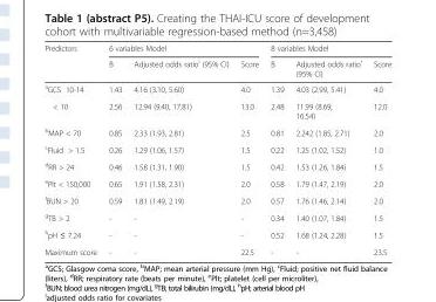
<table><thead><tr><td rowspan="2">Predictors</td><td colspan="3">6 variables Model</td><td colspan="3">8 variables Model</td></tr><tr><td>B</td><td>Adjusted odds ratio<sup>i</sup> (95% CI)</td><td>Score</td><td>B</td><td>Adjusted odds ratio<sup>i</sup> (95% CI)</td><td>Score</td></tr></thead><tbody><tr><td><sup>a</sup>GCS 10-14</td><td>1.43</td><td>4.16 (3.10, 5.60)</td><td>4.0</td><td>1.39</td><td>4.03 (2.99, 5.41)</td><td>4.0</td></tr><tr><td>&lt; 10</td><td>2.56</td><td>12.94 (9.40, 17.81)</td><td>13.0</td><td>2.48</td><td>11.99 (8.69, 16.54)</td><td>12.0</td></tr><tr><td><sup>b</sup>MAP &lt; 70</td><td>0.85</td><td>2.33 (1.93, 2.81)</td><td>2.5</td><td>0.81</td><td>2.242 (1.85, 2.71)</td><td>2.0</td></tr><tr><td><sup>c</sup>Fluid &gt; 1.5</td><td>0.26</td><td>1.29 (1.06, 1.57)</td><td>1.5</td><td>0.22</td><td>1.25 (1.02, 1.52)</td><td>1.0</td></tr><tr><td><sup>d</sup>RR &gt; 24</td><td>0.46</td><td>1.58 (1.31, 1.90)</td><td>1.5</td><td>0.42</td><td>1.53 (1.26, 1.84)</td><td>1.5</td></tr><tr><td><sup>e</sup>Plt &lt; 150,000</td><td>0.65</td><td>1.91 (1.58, 2.31)</td><td>2.0</td><td>0.58</td><td>1.79 (1.47, 2.19)</td><td>2.0</td></tr><tr><td><sup>f</sup>BUN &gt; 20</td><td>0.59</td><td>1.81 (1.49, 2.19)</td><td>2.0</td><td>0.57</td><td>1.76 (1.46, 2.14)</td><td>2.0</td></tr><tr><td><sup>g</sup>TB &gt; 2</td><td>-</td><td>-</td><td>-</td><td>0.34</td><td>1.40 (1.07, 1.84)</td><td>1.5</td></tr><tr><td><sup>h</sup>pH ≤ 7.24</td><td>-</td><td>-</td><td>-</td><td>0.52</td><td>1.68 (1.24, 2.28)</td><td>1.5</td></tr><tr><td>Maximum score</td><td>-</td><td>-</td><td>22.5</td><td>-</td><td>-</td><td>23.5</td></tr></tbody></table>